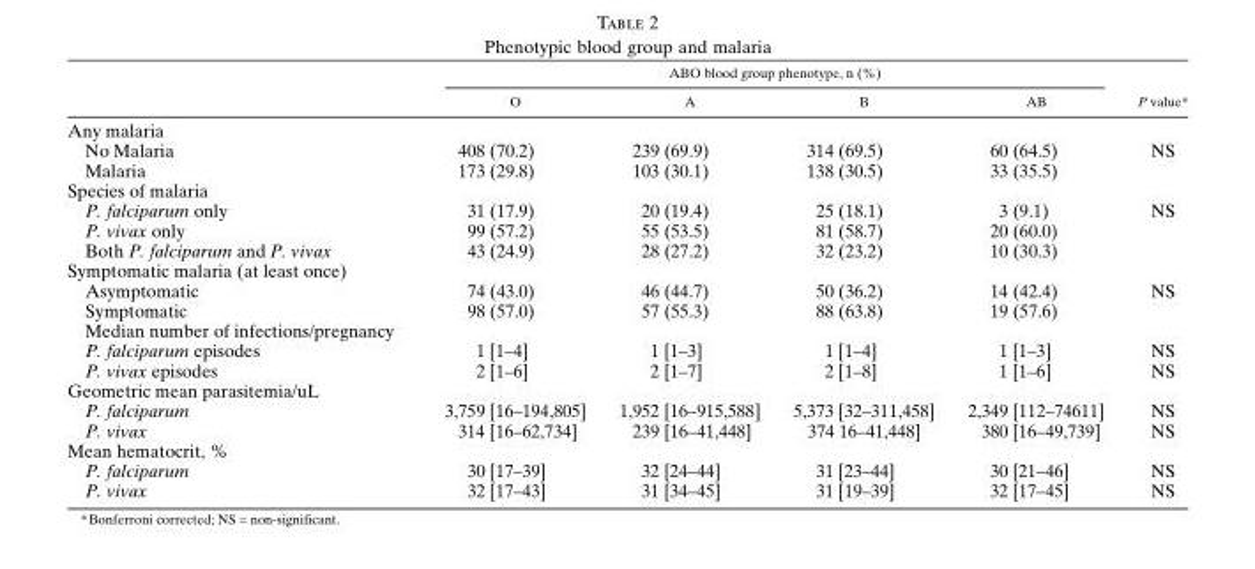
<table><thead><tr><td rowspan="2"></td><td colspan="4">ABO blood group phenotype, n (%)</td><td rowspan="2">P value*</td></tr><tr><td>O</td><td>A</td><td>B</td><td>AB</td></tr></thead><tbody><tr><td colspan="6">Any malaria</td></tr><tr><td>No Malaria</td><td>408 (70.2)</td><td>239 (69.9)</td><td>314 (69.5)</td><td>60 (64.5)</td><td rowspan="2">NS</td></tr><tr><td>Malaria</td><td>173 (29.8)</td><td>103 (30.1)</td><td>138 (30.5)</td><td>33 (35.5)</td></tr><tr><td colspan="6">Species of malaria</td></tr><tr><td>P. falciparum only</td><td>31 (17.9)</td><td>20 (19.4)</td><td>25 (18.1)</td><td>3 (9.1)</td><td rowspan="3">NS</td></tr><tr><td>P. vivax only</td><td>99 (57.2)</td><td>55 (53.5)</td><td>81 (58.7)</td><td>20 (60.0)</td></tr><tr><td>Both P. falciparum and P. vivax</td><td>43 (24.9)</td><td>28 (27.2)</td><td>32 (23.2)</td><td>10 (30.3)</td></tr><tr><td colspan="6">Symptomatic malaria (at least once)</td></tr><tr><td>Asymptomatic</td><td>74 (43.0)</td><td>46 (44.7)</td><td>50 (36.2)</td><td>14 (42.4)</td><td rowspan="2">NS</td></tr><tr><td>Symptomatic</td><td>98 (57.0)</td><td>57 (55.3)</td><td>88 (63.8)</td><td>19 (57.6)</td></tr><tr><td colspan="6">Median number of infections/pregnancy</td></tr><tr><td>P. falciparum episodes</td><td>1 [1–4]</td><td>1 [1–3]</td><td>1 [1–4]</td><td>1 [1–3]</td><td>NS</td></tr><tr><td>P. vivax episodes</td><td>2 [1–6]</td><td>2 [1–7]</td><td>2 [1–8]</td><td>1 [1–6]</td><td>NS</td></tr><tr><td colspan="6">Geometric mean parasitemia/uL</td></tr><tr><td>P. falciparum</td><td>3,759 [16–194,805]</td><td>1,952 [16–915,588]</td><td>5,373 [32–311,458]</td><td>2,349 [112–74611]</td><td>NS</td></tr><tr><td>P. vivax</td><td>314 [16–62,734]</td><td>239 [16–41,448]</td><td>374 16–41,448]</td><td>380 [16–49,739]</td><td>NS</td></tr><tr><td colspan="6">Mean hematocrit, %</td></tr><tr><td>P. falciparum</td><td>30 [17–39]</td><td>32 [24–44]</td><td>31 [23–44]</td><td>30 [21–46]</td><td>NS</td></tr><tr><td>P. vivax</td><td>32 [17–43]</td><td>31 [34–45]</td><td>31 [19–39]</td><td>32 [17–45]</td><td>NS</td></tr></tbody></table>